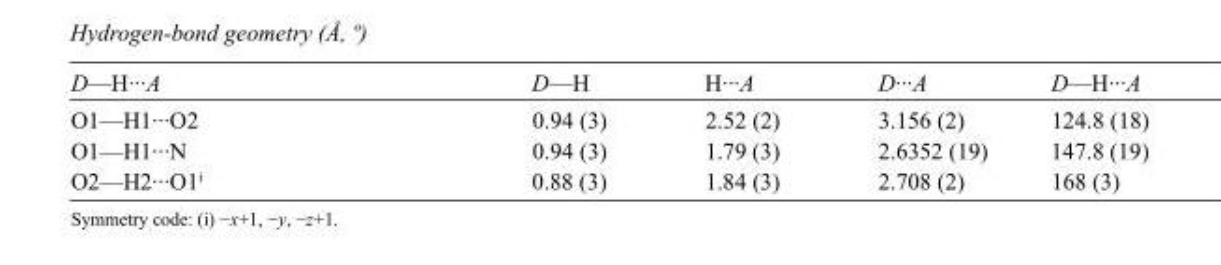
<table><tbody><tr><td>D—H···A</td><td>D—H</td><td>H···A</td><td>D···A</td><td>D—H···A</td></tr><tr><td>O1—H1···O2</td><td>0.94 (3)</td><td>2.52 (2)</td><td>3.156 (2)</td><td>124.8 (18)</td></tr><tr><td>O1—H1···N</td><td>0.94 (3)</td><td>1.79 (3)</td><td>2.6352 (19)</td><td>147.8 (19)</td></tr><tr><td>O2—H2···O1<sup>i</sup></td><td>0.88 (3)</td><td>1.84 (3)</td><td>2.708 (2)</td><td>168 (3)</td></tr></tbody></table>